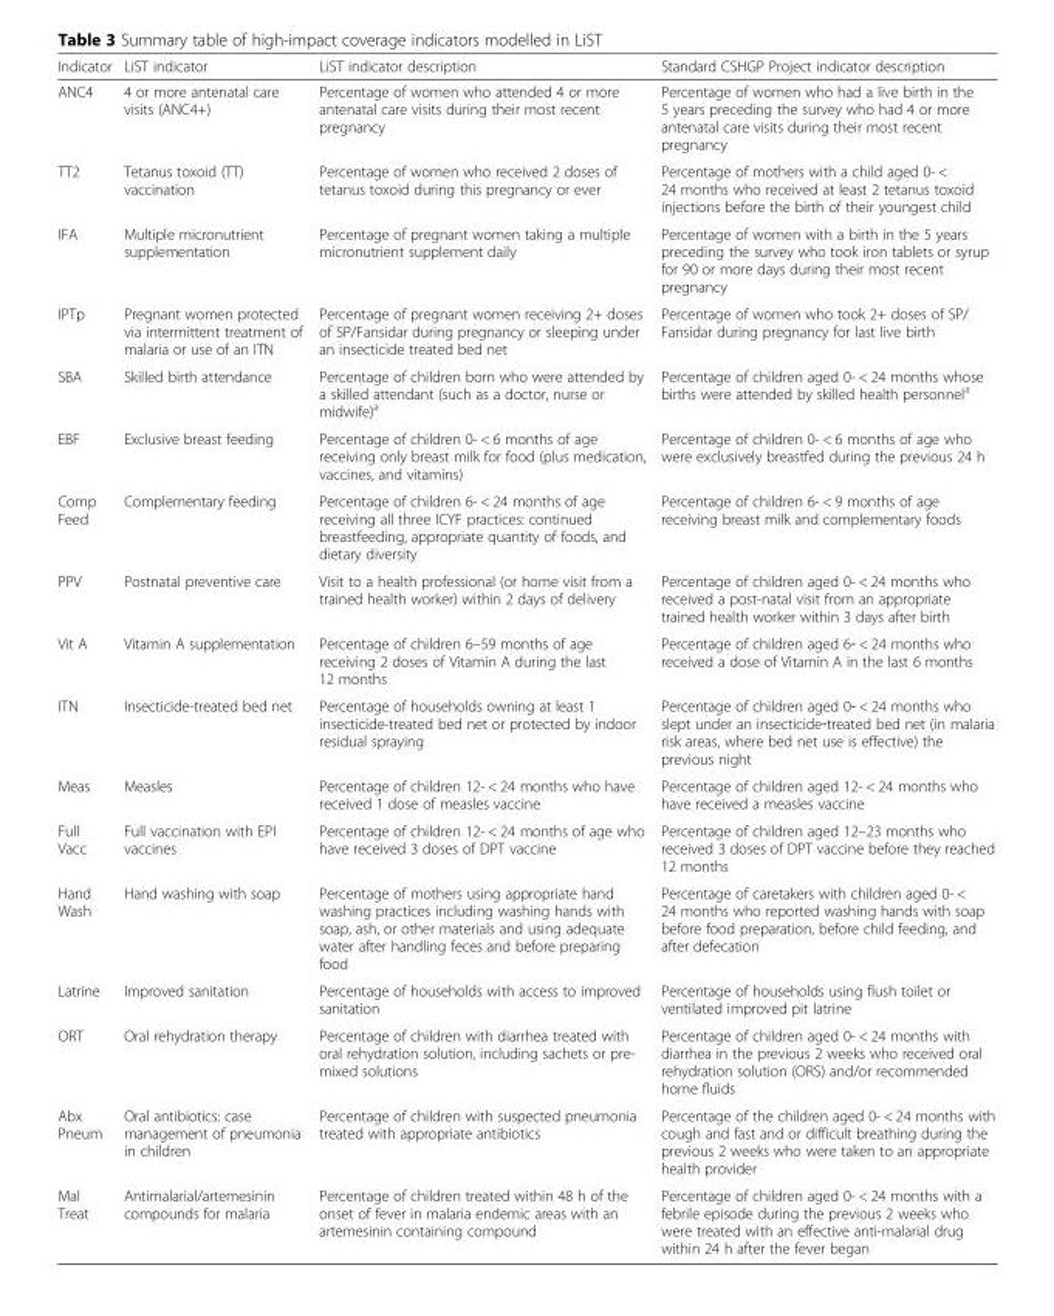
<table><thead><tr><td>Indicator</td><td>LiST indicator</td><td>LiST indicator description</td><td>Standard CSHGP Project indicator description</td></tr></thead><tbody><tr><td>ANC4</td><td>4 or more antenatal care visits (ANC4+)</td><td>Percentage of women who attended 4 or more antenatal care visits during their most recent pregnancy</td><td>Percentage of women who had a live birth in the 5 years preceding the survey who had 4 or more antenatal care visits during their most recent pregnancy</td></tr><tr><td>TT2</td><td>Tetanus toxoid (TT) vaccination</td><td>Percentage of women who received 2 doses of tetanus toxoid during this pregnancy or ever</td><td>Percentage of mothers with a child aged 0- &lt; 24 months who received at least 2 tetanus toxoid injections before the birth of their youngest child</td></tr><tr><td>IFA</td><td>Multiple micronutrient supplementation</td><td>Percentage of pregnant women taking a multiple micronutrient supplement daily</td><td>Percentage of women with a birth in the 5 years preceding the survey who took iron tablets or syrup for 90 or more days during their most recent pregnancy</td></tr><tr><td>IPTp</td><td>Pregnant women protected via intermittent treatment of malaria or use of an ITN</td><td>Percentage of pregnant women receiving 2+ doses of SP/Fansidar during pregnancy or sleeping under an insecticide treated bed net</td><td>Percentage of women who took 2+ doses of SP/ Fansidar during pregnancy for last live birth</td></tr><tr><td>SBA</td><td>Skilled birth attendance</td><td>Percentage of children born who were attended by a skilled attendant (such as a doctor, nurse or midwife)<sup>a</sup></td><td>Percentage of children aged 0- &lt; 24 months whose births were attended by skilled health personnel<sup>a</sup></td></tr><tr><td>EBF</td><td>Exclusive breast feeding</td><td>Percentage of children 0- &lt; 6 months of age receiving only breast milk for food (plus medication, vaccines, and vitamins)</td><td>Percentage of children 0- &lt; 6 months of age who were exclusively breastfed during the previous 24 h</td></tr><tr><td>Comp Feed</td><td>Complementary feeding</td><td>Percentage of children 6- &lt; 24 months of age receiving all three ICYF practices: continued breastfeeding, appropriate quantity of foods, and dietary diversity</td><td>Percentage of children 6- &lt; 9 months of age receiving breast milk and complementary foods</td></tr><tr><td>PPV</td><td>Postnatal preventive care</td><td>Visit to a health professional (or home visit from a trained health worker) within 2 days of delivery</td><td>Percentage of children aged 0- &lt; 24 months who received a post-natal visit from an appropriate trained health worker within 3 days after birth</td></tr><tr><td>Vit A</td><td>Vitamin A supplementation</td><td>Percentage of children 6–59 months of age receiving 2 doses of Vitamin A during the last 12 months</td><td>Percentage of children aged 6‐ &lt; 24 months who received a dose of Vitamin A in the last 6 months</td></tr><tr><td>ITN</td><td>Insecticide-treated bed net</td><td>Percentage of households owning at least 1 insecticide-treated bed net or protected by indoor residual spraying</td><td>Percentage of children aged 0‐ &lt; 24 months who slept under an insecticide‐treated bed net (in malaria risk areas, where bed net use is effective) the previous night</td></tr><tr><td>Meas</td><td>Measles</td><td>Percentage of children 12- &lt; 24 months who have received 1 dose of measles vaccine</td><td>Percentage of children aged 12- &lt; 24 months who have received a measles vaccine</td></tr><tr><td>Full Vacc</td><td>Full vaccination with EPI vaccines</td><td>Percentage of children 12- &lt; 24 months of age who have received 3 doses of DPT vaccine</td><td>Percentage of children aged 12–23 months who received 3 doses of DPT vaccine before they reached 12 months</td></tr><tr><td>Hand Wash</td><td>Hand washing with soap</td><td>Percentage of mothers using appropriate hand washing practices including washing hands with soap, ash, or other materials and using adequate water after handling feces and before preparing food</td><td>Percentage of caretakers with children aged 0- &lt; 24 months who reported washing hands with soap before food preparation, before child feeding, and after defecation</td></tr><tr><td>Latrine</td><td>Improved sanitation</td><td>Percentage of households with access to improved sanitation</td><td>Percentage of households using flush toilet or ventilated improved pit latrine</td></tr><tr><td>ORT</td><td>Oral rehydration therapy</td><td>Percentage of children with diarrhea treated with oral rehydration solution, including sachets or pre- mixed solutions</td><td>Percentage of children aged 0- &lt; 24 months with diarrhea in the previous 2 weeks who received oral rehydration solution (ORS) and/or recommended home fluids</td></tr><tr><td>Abx Pneum</td><td>Oral antibiotics: case management of pneumonia in children</td><td>Percentage of children with suspected pneumonia treated with appropriate antibiotics</td><td>Percentage of the children aged 0- &lt; 24 months with cough and fast and or difficult breathing during the previous 2 weeks who were taken to an appropriate health provider</td></tr><tr><td>Mal Treat</td><td>Antimalarial/artemesinin compounds for malaria</td><td>Percentage of children treated within 48 h of the onset of fever in malaria endemic areas with an artemesinin containing compound</td><td>Percentage of children aged 0- &lt; 24 months with a febrile episode during the previous 2 weeks who were treated with an effective anti-malarial drug within 24 h after the fever began</td></tr></tbody></table>